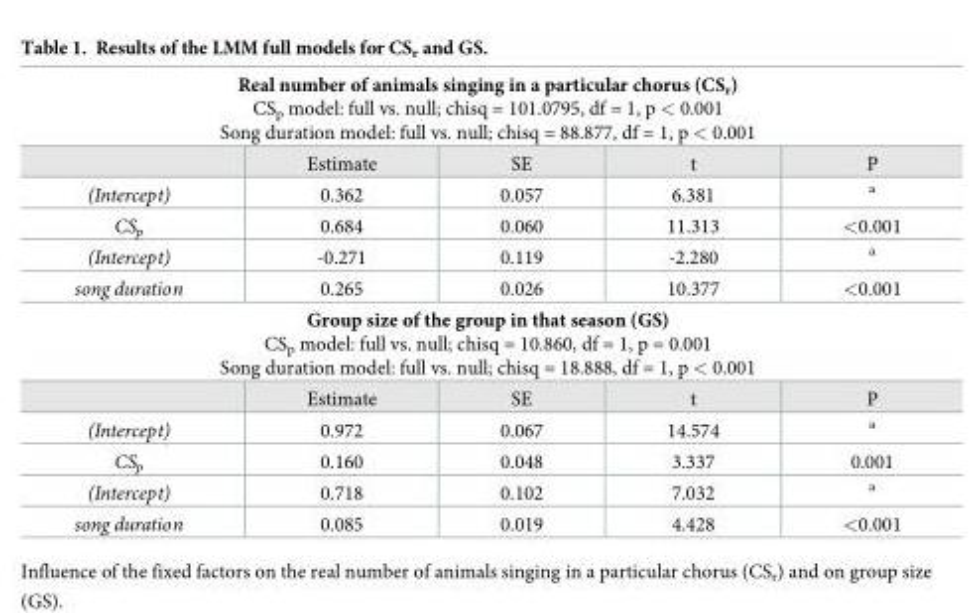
<table><tbody><tr><td colspan="5">Real number of animals singing in a particular chorus (CS<sub>r</sub>) CS<sub>p</sub> model: full vs. null; chisq = 101.0795, df = 1, p &lt; 0.001 Song duration model: full vs. null; chisq = 88.877, df = 1, p &lt; 0.001</td></tr><tr><td></td><td>Estimate</td><td>SE</td><td>t</td><td>P</td></tr><tr><td>(Intercept)</td><td>0.362</td><td>0.057</td><td>6.381</td><td><sup>a</sup></td></tr><tr><td>CS<sub>p</sub></td><td>0.684</td><td>0.060</td><td>11.313</td><td>&lt;0.001</td></tr><tr><td>(Intercept)</td><td>-0.271</td><td>0.119</td><td>-2.280</td><td><sup>a</sup></td></tr><tr><td>song duration</td><td>0.265</td><td>0.026</td><td>10.377</td><td>&lt;0.001</td></tr><tr><td colspan="5">Group size of the group in that season (GS) CS<sub>p</sub> model: full vs. null; chisq = 10.860, df = 1, p = 0.001 Song duration model: full vs. null; chisq = 18.888, df = 1, p &lt; 0.001</td></tr><tr><td></td><td>Estimate</td><td>SE</td><td>t</td><td>P</td></tr><tr><td>(Intercept)</td><td>0.972</td><td>0.067</td><td>14.574</td><td><sup>a</sup></td></tr><tr><td>CS<sub>p</sub></td><td>0.160</td><td>0.048</td><td>3.337</td><td>0.001</td></tr><tr><td>(Intercept)</td><td>0.718</td><td>0.102</td><td>7.032</td><td><sup>a</sup></td></tr><tr><td>song duration</td><td>0.085</td><td>0.019</td><td>4.428</td><td>&lt;0.001</td></tr></tbody></table>